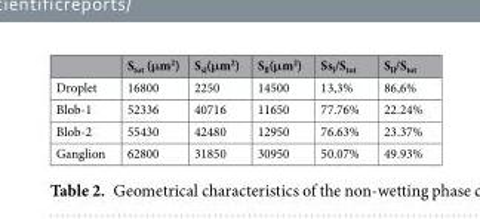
<table><thead><tr><td></td><td>S<sub>tot</sub> (μm<sup>2</sup>)</td><td>S<sub>sl</sub>(μm<sup>2</sup>)</td><td>S<sub>ll</sub>(μm<sup>2</sup>)</td><td>Ss<sub>l</sub>/S<sub>tot</sub></td><td>S<sub>ll</sub>/S<sub>tot</sub></td></tr></thead><tbody><tr><td>Droplet</td><td>16800</td><td>2250</td><td>14500</td><td>13,3%</td><td>86,6%</td></tr><tr><td>Blob-1</td><td>52336</td><td>40716</td><td>11650</td><td>77.76%</td><td>22.24%</td></tr><tr><td>Blob-2</td><td>55430</td><td>42480</td><td>12950</td><td>76.63%</td><td>23.37%</td></tr><tr><td>Ganglion</td><td>62800</td><td>31850</td><td>30950</td><td>50.07%</td><td>49.93%</td></tr></tbody></table>